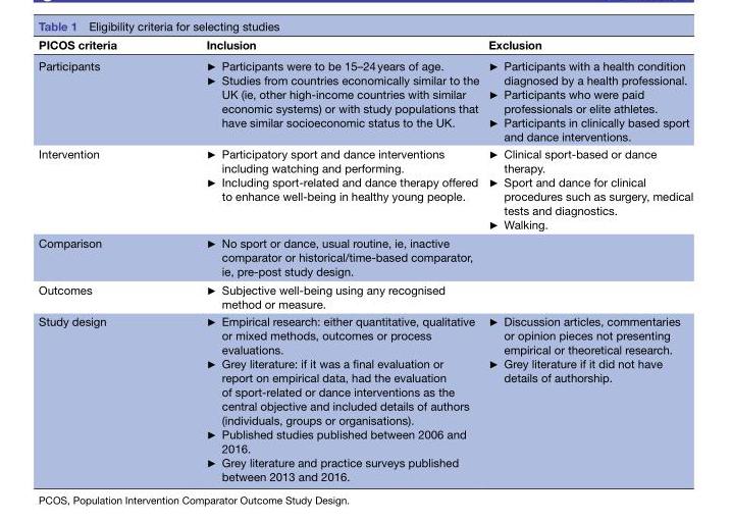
<table><thead><tr><td>PICOS criteria</td><td>Inclusion</td><td>Exclusion</td></tr></thead><tbody><tr><td>Participants</td><td>► Participants were to be 15–24 years of age. ► Studies from countries economically similar to the UK (ie, other high-income countries with similar economic systems) or with study populations that have similar socioeconomic status to the UK.</td><td>► Participants with a health condition diagnosed by a health professional. ► Participants who were paid professionals or elite athletes. ► Participants in clinically based sport and dance interventions.</td></tr><tr><td>Intervention</td><td>► Participatory sport and dance interventions including watching and performing. ► Including sport-related and dance therapy offered to enhance well-being in healthy young people.</td><td>► Clinical sport-based or dance therapy. ► Sport and dance for clinical procedures such as surgery, medical tests and diagnostics. ► Walking.</td></tr><tr><td>Comparison</td><td>► No sport or dance, usual routine, ie, inactive comparator or historical/time-based comparator, ie, pre-post study design.</td><td></td></tr><tr><td>Outcomes</td><td>► Subjective well-being using any recognised method or measure.</td><td></td></tr><tr><td>Study design</td><td>► Empirical research: either quantitative, qualitative or mixed methods, outcomes or process evaluations. ► Grey literature: if it was a final evaluation or report on empirical data, had the evaluation of sport-related or dance interventions as the central objective and included details of authors (individuals, groups or organisations). ► Published studies published between 2006 and 2016. ► Grey literature and practice surveys published between 2013 and 2016.</td><td>► Discussion articles, commentaries or opinion pieces not presenting empirical or theoretical research. ► Grey literature if it did not have details of authorship.</td></tr></tbody></table>